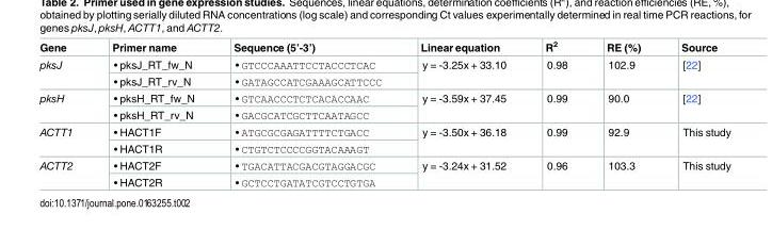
<table><thead><tr><td>Gene</td><td>Primer name</td><td>Sequence (5’-3’)</td><td>Linear equation</td><td>R<sup>2</sup></td><td>RE (%)</td><td>Source</td></tr></thead><tbody><tr><td rowspan="2">pksJ</td><td>• pksJ_RT_fw_N</td><td>• GTCCCAAATTCCTACCCTCAC</td><td rowspan="2">y = -3.25x + 33.10</td><td rowspan="2">0.98</td><td rowspan="2">102.9</td><td rowspan="2">[22]</td></tr><tr><td>• pksJ_RT_rv_N</td><td>• GATAGCCATCGAAAGCATTCCC</td></tr><tr><td rowspan="2">pksH</td><td>• pksH_RT_fw_N</td><td>• GTCAACCCTCTCACACCAAC</td><td rowspan="2">y = -3.59x + 37.45</td><td rowspan="2">0.99</td><td rowspan="2">90.0</td><td rowspan="2">[22]</td></tr><tr><td>• pksH_RT_rv_N</td><td>• GACGCATCGCTTCAATAGCC</td></tr><tr><td rowspan="2">ACTT1</td><td>• HACT1F</td><td>• ATGCGCGAGATTTTCTGACC</td><td rowspan="2">y = -3.50x + 36.18</td><td rowspan="2">0.99</td><td rowspan="2">92.9</td><td rowspan="2">This study</td></tr><tr><td>• HACT1R</td><td>• CTGTCTCCCCGGTACAAAGT</td></tr><tr><td rowspan="2">ACTT2</td><td>• HACT2F</td><td>• TGACATTACGACGTAGGACGC</td><td rowspan="2">y = -3.24x + 31.52</td><td rowspan="2">0.96</td><td rowspan="2">103.3</td><td rowspan="2">This study</td></tr><tr><td>• HACT2R</td><td>• GCTCCTGATATCGTCCTGTGA</td></tr></tbody></table>